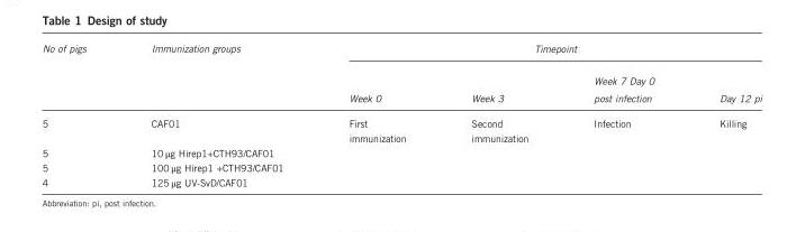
<table><thead><tr><td rowspan="2">No of pigs</td><td rowspan="2">Immunization groups</td><td colspan="4">Timepoint</td></tr><tr><td>Week 0</td><td>Week 3</td><td>Week 7 Day 0 post infection</td><td>Day 12 pi</td></tr></thead><tbody><tr><td>5</td><td>CAF01</td><td>First immunization</td><td>Second immunization</td><td>Infection</td><td>Killing</td></tr><tr><td>5</td><td>10 μg Hirep1+CTH93/CAF01</td><td></td><td></td><td></td><td></td></tr><tr><td>5</td><td>100 μg Hirep1 +CTH93/CAF01</td><td></td><td></td><td></td><td></td></tr><tr><td>4</td><td>125 μg UV-SvD/CAF01</td><td></td><td></td><td></td><td></td></tr></tbody></table>